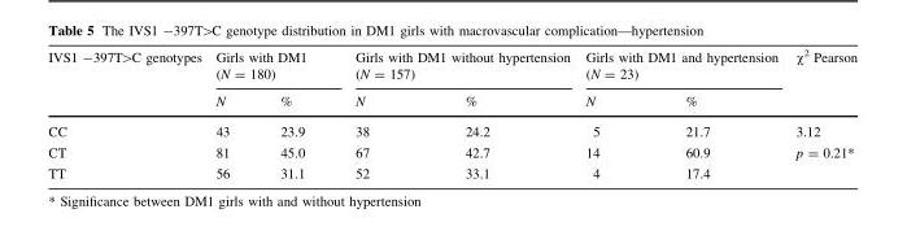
<table><thead><tr><td rowspan="2">IVS1 -397T&gt;C genotypes</td><td colspan="2">Girls with DM1 (N = 180)</td><td colspan="2">Girls with DM1 without hypertension (N = 157)</td><td colspan="2">Girls with DM1 and hypertension (N = 23)</td><td rowspan="2">χ<sup>2</sup> Pearson</td></tr><tr><td>N</td><td>%</td><td>N</td><td>%</td><td>N</td><td>%</td></tr></thead><tbody><tr><td>CC</td><td>43</td><td>23.9</td><td>38</td><td>24.2</td><td>5</td><td>21.7</td><td rowspan="3">3.12 p = 0.21*</td></tr><tr><td>CT</td><td>81</td><td>45.0</td><td>67</td><td>42.7</td><td>14</td><td>60.9</td></tr><tr><td>TT</td><td>56</td><td>31.1</td><td>52</td><td>33.1</td><td>4</td><td>17.4</td></tr></tbody></table>